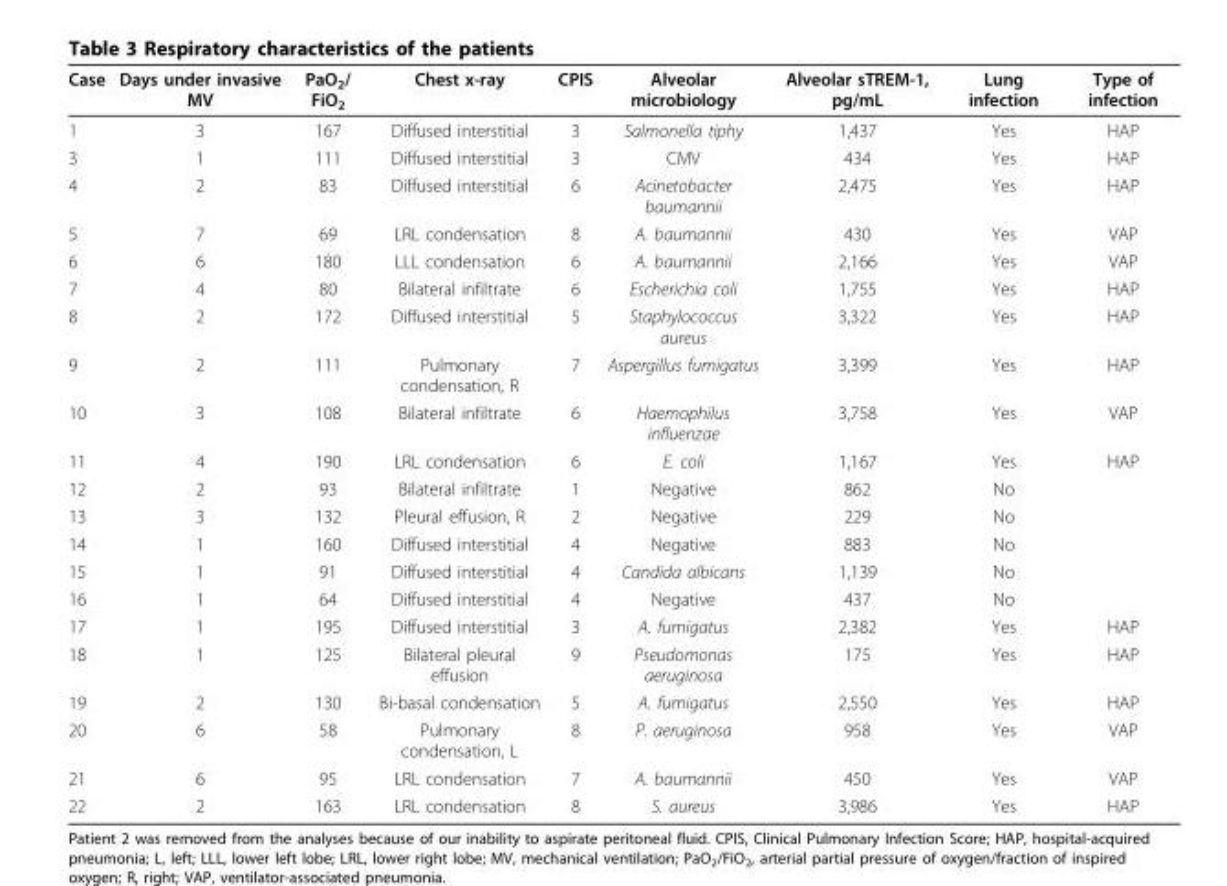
<table><thead><tr><td>Case</td><td>Days under invasive MV</td><td>PaO<sub>2</sub>/ FiO<sub>2</sub></td><td>Chest x-ray</td><td>CPIS</td><td>Alveolar microbiology</td><td>Alveolar sTREM-1, pg/mL</td><td>Lung infection</td><td>Type of infection</td></tr></thead><tbody><tr><td>1</td><td>3</td><td>167</td><td>Diffused interstitial</td><td>3</td><td>Salmonella tiphy</td><td>1,437</td><td>Yes</td><td>HAP</td></tr><tr><td>3</td><td>1</td><td>111</td><td>Diffused interstitial</td><td>3</td><td>CMV</td><td>434</td><td>Yes</td><td>HAP</td></tr><tr><td>4</td><td>2</td><td>83</td><td>Diffused interstitial</td><td>6</td><td>Acinetobacter baumannii</td><td>2,475</td><td>Yes</td><td>HAP</td></tr><tr><td>5</td><td>7</td><td>69</td><td>LRL condensation</td><td>8</td><td>A. baumannii</td><td>430</td><td>Yes</td><td>VAP</td></tr><tr><td>6</td><td>6</td><td>180</td><td>LLL condensation</td><td>6</td><td>A. baumannii</td><td>2,166</td><td>Yes</td><td>VAP</td></tr><tr><td>7</td><td>4</td><td>80</td><td>Bilateral infiltrate</td><td>6</td><td>Escherichia coli</td><td>1,755</td><td>Yes</td><td>HAP</td></tr><tr><td>8</td><td>2</td><td>172</td><td>Diffused interstitial</td><td>5</td><td>Staphylococcus aureus</td><td>3,322</td><td>Yes</td><td>HAP</td></tr><tr><td>9</td><td>2</td><td>111</td><td>Pulmonary condensation, R</td><td>7</td><td>Aspergillus fumigatus</td><td>3,399</td><td>Yes</td><td>HAP</td></tr><tr><td>10</td><td>3</td><td>108</td><td>Bilateral infiltrate</td><td>6</td><td>Haemophilus influenzae</td><td>3,758</td><td>Yes</td><td>VAP</td></tr><tr><td>11</td><td>4</td><td>190</td><td>LRL condensation</td><td>6</td><td>E. coli</td><td>1,167</td><td>Yes</td><td>HAP</td></tr><tr><td>12</td><td>2</td><td>93</td><td>Bilateral infiltrate</td><td>1</td><td>Negative</td><td>862</td><td>No</td><td></td></tr><tr><td>13</td><td>3</td><td>132</td><td>Pleural effusion, R</td><td>2</td><td>Negative</td><td>229</td><td>No</td><td></td></tr><tr><td>14</td><td>1</td><td>160</td><td>Diffused interstitial</td><td>4</td><td>Negative</td><td>883</td><td>No</td><td></td></tr><tr><td>15</td><td>1</td><td>91</td><td>Diffused interstitial</td><td>4</td><td>Candida albicans</td><td>1,139</td><td>No</td><td></td></tr><tr><td>16</td><td>1</td><td>64</td><td>Diffused interstitial</td><td>4</td><td>Negative</td><td>437</td><td>No</td><td></td></tr><tr><td>17</td><td>1</td><td>195</td><td>Diffused interstitial</td><td>3</td><td>A. fumigatus</td><td>2,382</td><td>Yes</td><td>HAP</td></tr><tr><td>18</td><td>1</td><td>125</td><td>Bilateral pleural effusion</td><td>9</td><td>Pseudomonas aeruginosa</td><td>175</td><td>Yes</td><td>HAP</td></tr><tr><td>19</td><td>2</td><td>130</td><td>Bi-basal condensation</td><td>5</td><td>A. fumigatus</td><td>2,550</td><td>Yes</td><td>HAP</td></tr><tr><td>20</td><td>6</td><td>58</td><td>Pulmonary condensation, L</td><td>8</td><td>P. aeruginosa</td><td>958</td><td>Yes</td><td>VAP</td></tr><tr><td>21</td><td>6</td><td>95</td><td>LRL condensation</td><td>7</td><td>A. baumannii</td><td>450</td><td>Yes</td><td>VAP</td></tr><tr><td>22</td><td>2</td><td>163</td><td>LRL condensation</td><td>8</td><td>S. aureus</td><td>3,986</td><td>Yes</td><td>HAP</td></tr></tbody></table>